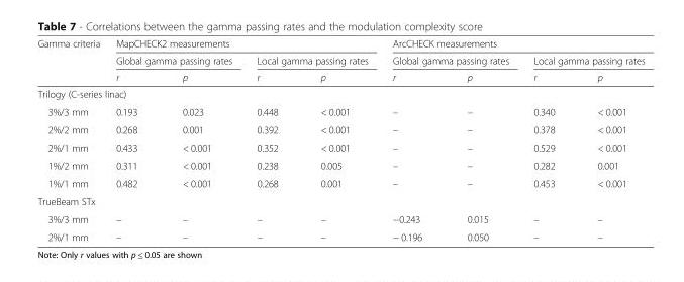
<table><thead><tr><td rowspan="3">Gamma criteria</td><td colspan="4">MapCHECK2 measurements</td><td colspan="4">ArcCHECK measurements</td></tr><tr><td colspan="2">Global gamma passing rates</td><td colspan="2">Local gamma passing rates</td><td colspan="2">Global gamma passing rates</td><td colspan="2">Local gamma passing rates</td></tr><tr><td>r</td><td>p</td><td>r</td><td>p</td><td>r</td><td>p</td><td>r</td><td>p</td></tr></thead><tbody><tr><td colspan="9">Trilogy (C-series linac)</td></tr><tr><td>3%/3 mm</td><td>0.193</td><td>0.023</td><td>0.448</td><td>&lt; 0.001</td><td>–</td><td>–</td><td>0.340</td><td>&lt; 0.001</td></tr><tr><td>2%/2 mm</td><td>0.268</td><td>0.001</td><td>0.392</td><td>&lt; 0.001</td><td>–</td><td>–</td><td>0.378</td><td>&lt; 0.001</td></tr><tr><td>2%/1 mm</td><td>0.433</td><td>&lt; 0.001</td><td>0.352</td><td>&lt; 0.001</td><td>–</td><td>–</td><td>0.529</td><td>&lt; 0.001</td></tr><tr><td>1%/2 mm</td><td>0.311</td><td>&lt; 0.001</td><td>0.238</td><td>0.005</td><td>–</td><td>–</td><td>0.282</td><td>0.001</td></tr><tr><td>1%/1 mm</td><td>0.482</td><td>&lt; 0.001</td><td>0.268</td><td>0.001</td><td>–</td><td>–</td><td>0.453</td><td>&lt; 0.001</td></tr><tr><td colspan="9">TrueBeam STx</td></tr><tr><td>3%/3 mm</td><td>–</td><td>–</td><td>–</td><td>–</td><td>−0.243</td><td>0.015</td><td>–</td><td>–</td></tr><tr><td>2%/1 mm</td><td>–</td><td>–</td><td>–</td><td>–</td><td>− 0.196</td><td>0.050</td><td>–</td><td>–</td></tr></tbody></table>